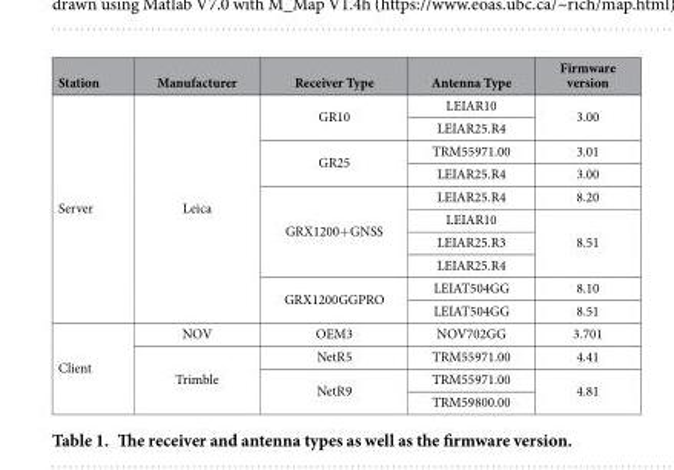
<table><thead><tr><td>Station</td><td>Manufacturer</td><td>Receiver Type</td><td>Antenna Type</td><td>Firmware version</td></tr></thead><tbody><tr><td rowspan="10">Server</td><td rowspan="10">Leica</td><td rowspan="2">GR10</td><td>LEIAR10</td><td rowspan="2">3.00</td></tr><tr><td>LEIAR25.R4</td></tr><tr><td rowspan="2">GR25</td><td>TRM55971.00</td><td>3.01</td></tr><tr><td>LEIAR25.R4</td><td>3.00</td></tr><tr><td rowspan="4">GRX1200+ GNSS</td><td>LEIAR25.R4</td><td>8.20</td></tr><tr><td>LEIAR10</td><td rowspan="3">8.51</td></tr><tr><td>LEIAR25.R3</td></tr><tr><td>LEIAR25.R4</td></tr><tr><td rowspan="2">GRX1200GGPRO</td><td>LEIAT504GG</td><td>8.10</td></tr><tr><td>LEIAT504GG</td><td>8.51</td></tr><tr><td rowspan="4">Client</td><td>NOV</td><td>OEM3</td><td>NOV702GG</td><td>3.701</td></tr><tr><td rowspan="3">Trimble</td><td>NetR5</td><td>TRM55971.00</td><td>4.41</td></tr><tr><td rowspan="2">NetR9</td><td>TRM55971.00</td><td rowspan="2">4.81</td></tr><tr><td>TRM59800.00</td></tr></tbody></table>